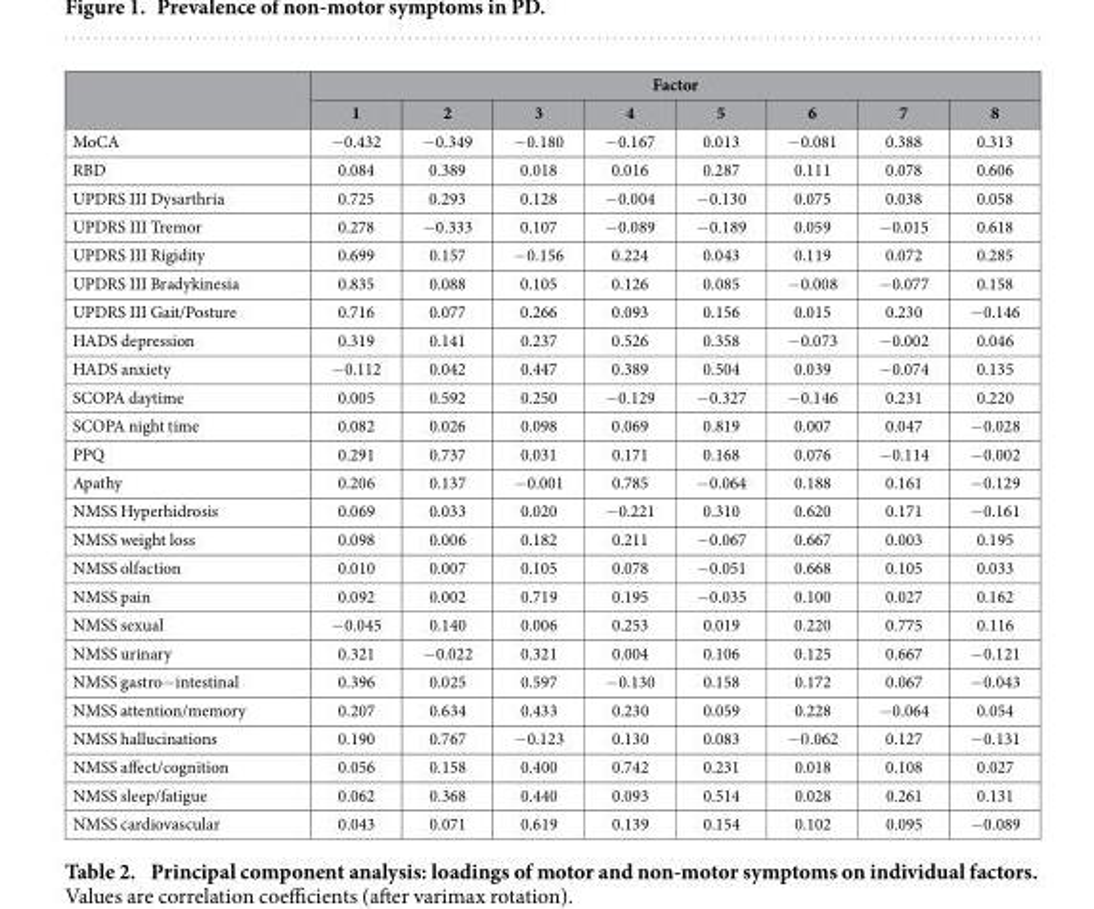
<table><thead><tr><td rowspan="2"></td><td colspan="8">Factor</td></tr><tr><td>1</td><td>2</td><td>3</td><td>4</td><td>5</td><td>6</td><td>7</td><td>8</td></tr></thead><tbody><tr><td>MoCA</td><td>−0.432</td><td>−0.349</td><td>−0.180</td><td>−0.167</td><td>0.013</td><td>−0.081</td><td>0.388</td><td>0.313</td></tr><tr><td>RBD</td><td>0.084</td><td>0.389</td><td>0.018</td><td>0.016</td><td>0.287</td><td>0.111</td><td>0.078</td><td>0.606</td></tr><tr><td>UPDRS III Dysarthria</td><td>0.725</td><td>0.293</td><td>0.128</td><td>−0.004</td><td>−0.130</td><td>0.075</td><td>0.038</td><td>0.058</td></tr><tr><td>UPDRS III Tremor</td><td>0.278</td><td>−0.333</td><td>0.107</td><td>−0.089</td><td>−0.189</td><td>0.059</td><td>−0.015</td><td>0.618</td></tr><tr><td>UPDRS III Rigidity</td><td>0.699</td><td>0.157</td><td>−0.156</td><td>0.224</td><td>0.043</td><td>0.119</td><td>0.072</td><td>0.285</td></tr><tr><td>UPDRS III Bradykinesia</td><td>0.835</td><td>0.088</td><td>0.105</td><td>0.126</td><td>0.085</td><td>−0.008</td><td>−0.077</td><td>0.158</td></tr><tr><td>UPDRS III Gait/Posture</td><td>0.716</td><td>0.077</td><td>0.266</td><td>0.093</td><td>0.156</td><td>0.015</td><td>0.230</td><td>−0.146</td></tr><tr><td>HADS depression</td><td>0.319</td><td>0.141</td><td>0.237</td><td>0.526</td><td>0.358</td><td>−0.073</td><td>−0.002</td><td>0.046</td></tr><tr><td>HADS anxiety</td><td>−0.112</td><td>0.042</td><td>0.447</td><td>0.389</td><td>0.504</td><td>0.039</td><td>−0.074</td><td>0.135</td></tr><tr><td>SCOPA daytime</td><td>0.005</td><td>0.592</td><td>0.250</td><td>−0.129</td><td>−0.327</td><td>−0.146</td><td>0.231</td><td>0.220</td></tr><tr><td>SCOPA night time</td><td>0.082</td><td>0.026</td><td>0.098</td><td>0.069</td><td>0.819</td><td>0.007</td><td>0.047</td><td>−0.028</td></tr><tr><td>PPQ</td><td>0.291</td><td>0.737</td><td>0.031</td><td>0.171</td><td>0.168</td><td>0.076</td><td>−0.114</td><td>−0.002</td></tr><tr><td>Apathy</td><td>0.206</td><td>0.137</td><td>−0.001</td><td>0.785</td><td>−0.064</td><td>0.188</td><td>0.161</td><td>−0.129</td></tr><tr><td>NMSS Hyperhidrosis</td><td>0.069</td><td>0.033</td><td>0.020</td><td>−0.221</td><td>0.310</td><td>0.620</td><td>0.171</td><td>−0.161</td></tr><tr><td>NMSS weight loss</td><td>0.098</td><td>0.006</td><td>0.182</td><td>0.211</td><td>−0.067</td><td>0.667</td><td>0.003</td><td>0.195</td></tr><tr><td>NMSS olfaction</td><td>0.010</td><td>0.007</td><td>0.105</td><td>0.078</td><td>−0.051</td><td>0.668</td><td>0.105</td><td>0.033</td></tr><tr><td>NMSS pain</td><td>0.092</td><td>0.002</td><td>0.719</td><td>0.195</td><td>−0.035</td><td>0.100</td><td>0.027</td><td>0.162</td></tr><tr><td>NMSS sexual</td><td>−0.045</td><td>0.140</td><td>0.006</td><td>0.253</td><td>0.019</td><td>0.220</td><td>0.775</td><td>0.116</td></tr><tr><td>NMSS urinary</td><td>0.321</td><td>−0.022</td><td>0.321</td><td>0.004</td><td>0.106</td><td>0.125</td><td>0.667</td><td>−0.121</td></tr><tr><td>NMSS gastro−intestinal</td><td>0.396</td><td>0.025</td><td>0.597</td><td>−0.130</td><td>0.158</td><td>0.172</td><td>0.067</td><td>−0.043</td></tr><tr><td>NMSS attention/memory</td><td>0.207</td><td>0.634</td><td>0.433</td><td>0.230</td><td>0.059</td><td>0.228</td><td>−0.064</td><td>0.054</td></tr><tr><td>NMSS hallucinations</td><td>0.190</td><td>0.767</td><td>−0.123</td><td>0.130</td><td>0.083</td><td>−0.062</td><td>0.127</td><td>−0.131</td></tr><tr><td>NMSS affect/cognition</td><td>0.056</td><td>0.158</td><td>0.400</td><td>0.742</td><td>0.231</td><td>0.018</td><td>0.108</td><td>0.027</td></tr><tr><td>NMSS sleep/fatigue</td><td>0.062</td><td>0.368</td><td>0.440</td><td>0.093</td><td>0.514</td><td>0.028</td><td>0.261</td><td>0.131</td></tr><tr><td>NMSS cardiovascular</td><td>0.043</td><td>0.071</td><td>0.619</td><td>0.139</td><td>0.154</td><td>0.102</td><td>0.095</td><td>−0.089</td></tr></tbody></table>